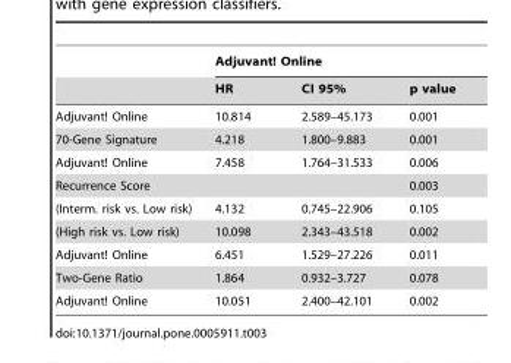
<table><thead><tr><td rowspan="2"></td><td colspan="3">Adjuvant! Online</td></tr><tr><td>HR</td><td>CI 95%</td><td>p value</td></tr></thead><tbody><tr><td>Adjuvant! Online</td><td>10.814</td><td>2.589–45.173</td><td>0.001</td></tr><tr><td>70-Gene Signature</td><td>4.218</td><td>1.800–9.883</td><td>0.001</td></tr><tr><td>Adjuvant! Online</td><td>7.458</td><td>1.764–31.533</td><td>0.006</td></tr><tr><td>Recurrence Score</td><td></td><td></td><td>0.003</td></tr><tr><td>(Interm. risk vs. Low risk)</td><td>4.132</td><td>0.745–22.906</td><td>0.105</td></tr><tr><td>(High risk vs. Low risk)</td><td>10.098</td><td>2.343–43.518</td><td>0.002</td></tr><tr><td>Adjuvant! Online</td><td>6.451</td><td>1.529–27.226</td><td>0.011</td></tr><tr><td>Two-Gene Ratio</td><td>1.864</td><td>0.932–3.727</td><td>0.078</td></tr><tr><td>Adjuvant! Online</td><td>10.051</td><td>2.400–42.101</td><td>0.002</td></tr></tbody></table>